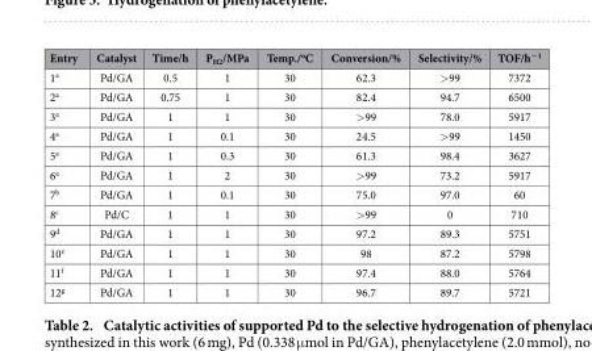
<table><thead><tr><td>Entry</td><td>Catalyst</td><td>Time/h</td><td>P<sub>H2</sub>/MPa</td><td>Temp./<sup>o</sup>C</td><td>Conversion/%</td><td>Selectivity/%</td><td>TOF/h<sup>−1</sup></td></tr></thead><tbody><tr><td>1<sup>a</sup></td><td>Pd/GA</td><td>0.5</td><td>1</td><td>30</td><td>62.3</td><td>&gt; 99</td><td>7372</td></tr><tr><td>2<sup>a</sup></td><td>Pd/GA</td><td>0.75</td><td>1</td><td>30</td><td>82.4</td><td>94.7</td><td>6500</td></tr><tr><td>3<sup>a</sup></td><td>Pd/GA</td><td>1</td><td>1</td><td>30</td><td>&gt; 99</td><td>78.0</td><td>5917</td></tr><tr><td>4<sup>a</sup></td><td>Pd/GA</td><td>1</td><td>0.1</td><td>30</td><td>24.5</td><td>&gt; 99</td><td>1450</td></tr><tr><td>5<sup>a</sup></td><td>Pd/GA</td><td>1</td><td>0.3</td><td>30</td><td>61.3</td><td>98.4</td><td>3627</td></tr><tr><td>6<sup>a</sup></td><td>Pd/GA</td><td>1</td><td>2</td><td>30</td><td>&gt; 99</td><td>73.2</td><td>5917</td></tr><tr><td>7<sup>b</sup></td><td>Pd/GA</td><td>1</td><td>0.1</td><td>30</td><td>75.0</td><td>97.0</td><td>60</td></tr><tr><td>8<sup>c</sup></td><td>Pd/C</td><td>1</td><td>1</td><td>30</td><td>&gt; 99</td><td>0</td><td>710</td></tr><tr><td>9<sup>d</sup></td><td>Pd/GA</td><td>1</td><td>1</td><td>30</td><td>97.2</td><td>89.3</td><td>5751</td></tr><tr><td>10<sup>e</sup></td><td>Pd/GA</td><td>1</td><td>1</td><td>30</td><td>98</td><td>87.2</td><td>5798</td></tr><tr><td>11<sup>f</sup></td><td>Pd/GA</td><td>1</td><td>1</td><td>30</td><td>97.4</td><td>88.0</td><td>5764</td></tr><tr><td>12<sup>g</sup></td><td>Pd/GA</td><td>1</td><td>1</td><td>30</td><td>96.7</td><td>89.7</td><td>5721</td></tr></tbody></table>